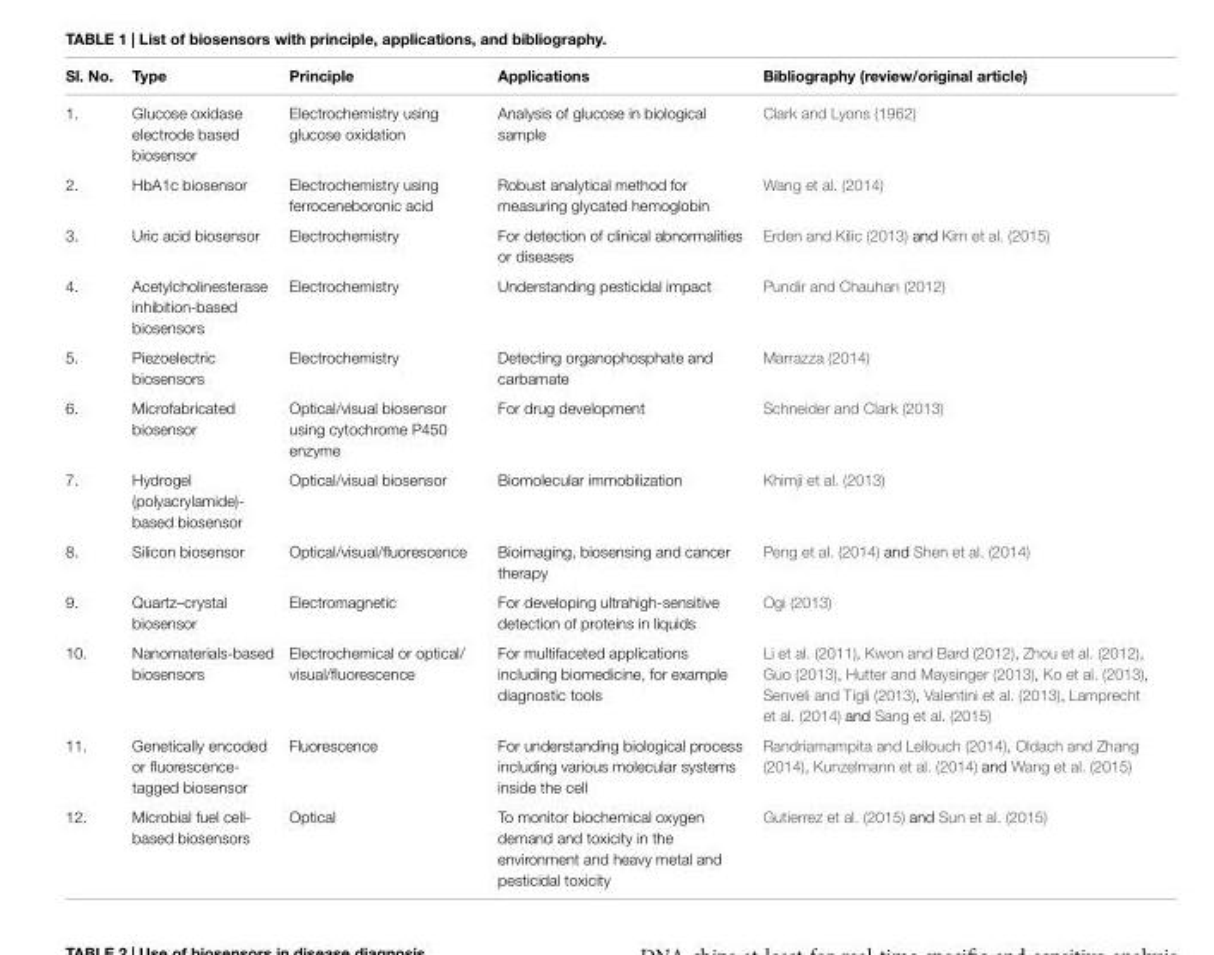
<table><thead><tr><td>Sl. No.</td><td>Type</td><td>Principle</td><td>Applications</td><td>Bibliography (review/original article)</td></tr></thead><tbody><tr><td>1.</td><td>Glucose oxidase electrode based biosensor</td><td>Electrochemistry using glucose oxidation</td><td>Analysis of glucose in biological sample</td><td>Clark and Lyons (1962)</td></tr><tr><td>2.</td><td>HbA1c biosensor</td><td>Electrochemistry using ferroceneboronic acid</td><td>Robust analytical method for measuring glycated hemoglobin</td><td>Wang et al. (2014)</td></tr><tr><td>3.</td><td>Uric acid biosensor</td><td>Electrochemistry</td><td>For detection of clinical abnormalities or diseases</td><td>Erden and Kilic (2013) and Kim et al. (2015)</td></tr><tr><td>4.</td><td>Acetylcholinesterase inhibition-based biosensors</td><td>Electrochemistry</td><td>Understanding pesticidal impact</td><td>Pundir and Chauhan (2012)</td></tr><tr><td>5.</td><td>Piezoelectric biosensors</td><td>Electrochemistry</td><td>Detecting organophosphate and carbamate</td><td>Marrazza (2014)</td></tr><tr><td>6.</td><td>Microfabricated biosensor</td><td>Optical/visual biosensor using cytochrome P450 enzyme</td><td>For drug development</td><td>Schneider and Clark (2013)</td></tr><tr><td>7.</td><td>Hydrogel (polyacrylamide)- based biosensor</td><td>Optical/visual biosensor</td><td>Biomolecular immobilization</td><td>Khimji et al. (2013)</td></tr><tr><td>8.</td><td>Silicon biosensor</td><td>Optical/visual/fluorescence</td><td>Bioimaging, biosensing and cancer therapy</td><td>Peng et al. (2014) and Shen et al. (2014)</td></tr><tr><td>9.</td><td>Quartz–crystal biosensor</td><td>Electromagnetic</td><td>For developing ultrahigh-sensitive detection of proteins in liquids</td><td>Ogi (2013)</td></tr><tr><td>10.</td><td>Nanomaterials-based biosensors</td><td>Electrochemical or optical/ visual/fluorescence</td><td>For multifaceted applications including biomedicine, for example diagnostic tools</td><td>Li et al. (2011), Kwon and Bard (2012), Zhou et al. (2012), Guo (2013), Hutter and Maysinger (2013), Ko et al. (2013), Senveli and Tigli (2013), Valentini et al. (2013), Lamprecht et al. (2014) and Sang et al. (2015)</td></tr><tr><td>11.</td><td>Genetically encoded or fluorescence- tagged biosensor</td><td>Fluorescence</td><td>For understanding biological process including various molecular systems inside the cell</td><td>Randriamampita and Lellouch (2014), Oldach and Zhang (2014), Kunzelmann et al. (2014) and Wang et al. (2015)</td></tr><tr><td>12.</td><td>Microbial fuel cell- based biosensors</td><td>Optical</td><td>To monitor biochemical oxygen demand and toxicity in the environment and heavy metal and pesticidal toxicity</td><td>Gutierrez et al. (2015) and Sun et al. (2015)</td></tr></tbody></table>